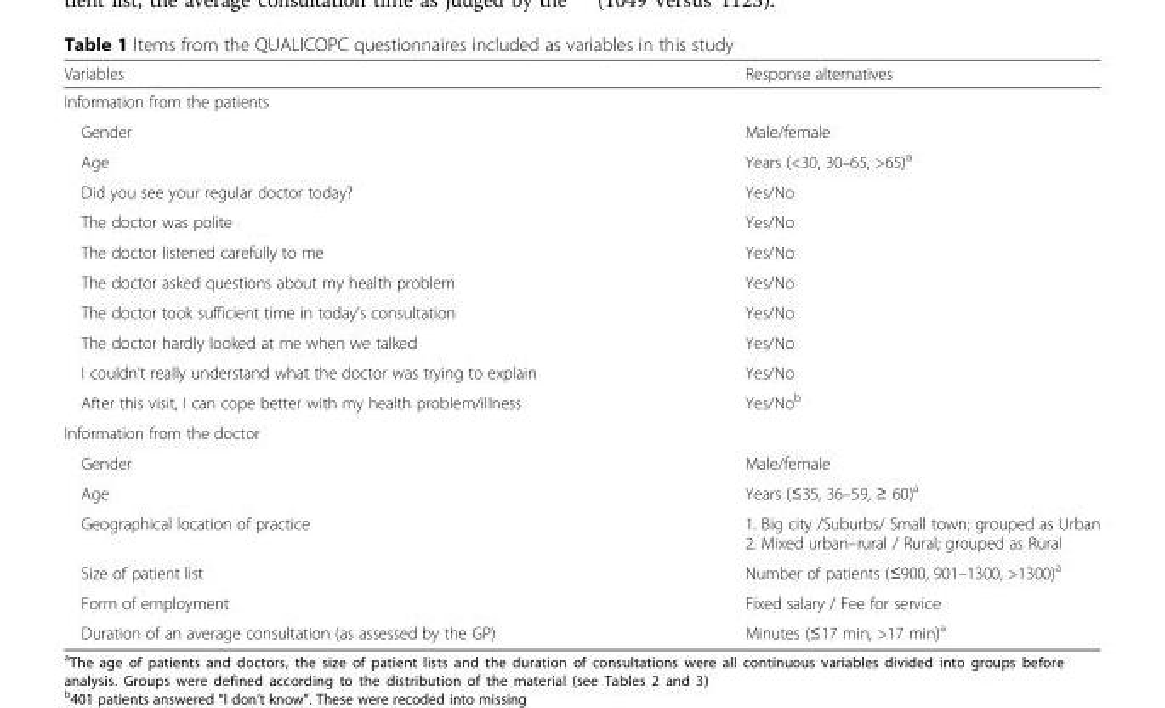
<table><thead><tr><td>Variables</td><td>Response alternatives</td></tr></thead><tbody><tr><td colspan="2">Information from the patients</td></tr><tr><td>Gender</td><td>Male/female</td></tr><tr><td>Age</td><td>Years (&lt;30, 30–65, &gt;65)<sup>a</sup></td></tr><tr><td>Did you see your regular doctor today?</td><td>Yes/No</td></tr><tr><td>The doctor was polite</td><td>Yes/No</td></tr><tr><td>The doctor listened carefully to me</td><td>Yes/No</td></tr><tr><td>The doctor asked questions about my health problem</td><td>Yes/No</td></tr><tr><td>The doctor took sufficient time in today’s consultation</td><td>Yes/No</td></tr><tr><td>The doctor hardly looked at me when we talked</td><td>Yes/No</td></tr><tr><td>I couldn’t really understand what the doctor was trying to explain</td><td>Yes/No</td></tr><tr><td>After this visit, I can cope better with my health problem/illness</td><td>Yes/No<sup>b</sup></td></tr><tr><td colspan="2">Information from the doctor</td></tr><tr><td>Gender</td><td>Male/female</td></tr><tr><td>Age</td><td>Years (≤35, 36–59, ≥ 60)<sup>a</sup></td></tr><tr><td>Geographical location of practice</td><td>1. Big city /Suburbs/ Small town; grouped as Urban 2. Mixed urban–rural / Rural; grouped as Rural</td></tr><tr><td>Size of patient list</td><td>Number of patients (≤900, 901–1300, &gt;1300)<sup>a</sup></td></tr><tr><td>Form of employment</td><td>Fixed salary / Fee for service</td></tr><tr><td>Duration of an average consultation (as assessed by the GP)</td><td>Minutes (≤17 min, &gt;17 min)<sup>a</sup></td></tr></tbody></table>